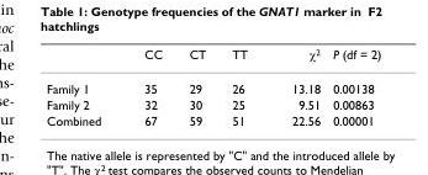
<table><thead><tr><td></td><td>CC</td><td>CT</td><td>TT</td><td>χ<sup>2</sup></td><td>P (df = 2)</td></tr></thead><tbody><tr><td>Family 1</td><td>35</td><td>29</td><td>26</td><td>13.18</td><td>0.00138</td></tr><tr><td>Family 2</td><td>32</td><td>30</td><td>25</td><td>9.51</td><td>0.00863</td></tr><tr><td>Combined</td><td>67</td><td>59</td><td>51</td><td>22.56</td><td>0.00001</td></tr></tbody></table>